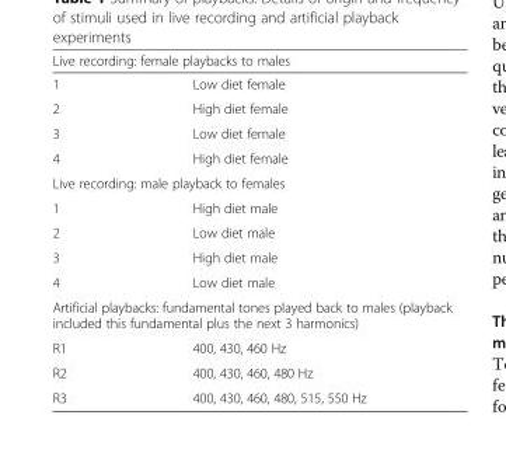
<table><thead><tr><td colspan="2">Live recording: female playbacks to males</td></tr><tr><td>1</td><td>Low diet female</td></tr></thead><tbody><tr><td>2</td><td>High diet female</td></tr><tr><td>3</td><td>Low diet female</td></tr><tr><td>4</td><td>High diet female</td></tr><tr><td colspan="2">Live recording: male playback to females</td></tr><tr><td>1</td><td>High diet male</td></tr><tr><td>2</td><td>Low diet male</td></tr><tr><td>3</td><td>High diet male</td></tr><tr><td>4</td><td>Low diet male</td></tr><tr><td colspan="2">Artificial playbacks: fundamental tones played back to males (playback included this fundamental plus the next 3 harmonics)</td></tr><tr><td>R1</td><td>400, 430, 460 Hz</td></tr><tr><td>R2</td><td>400, 430, 460, 480 Hz</td></tr><tr><td>R3</td><td>400, 430, 460, 480, 515, 550 Hz</td></tr></tbody></table>